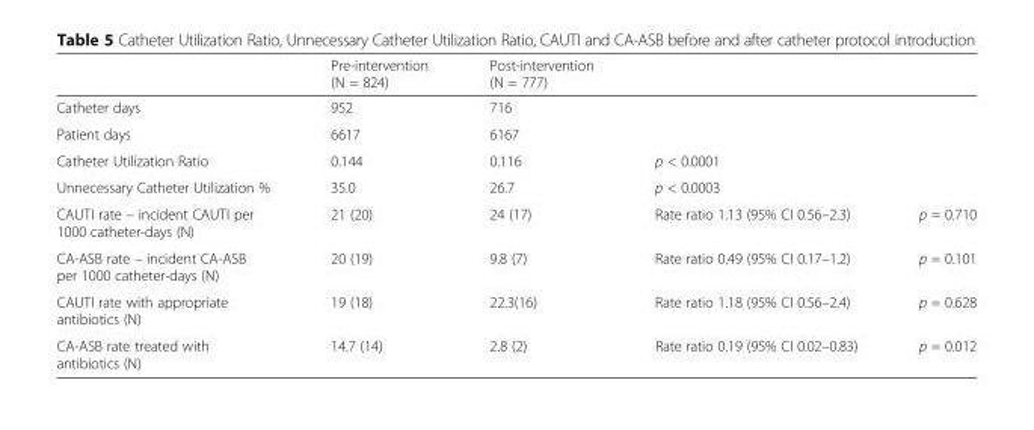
<table><thead><tr><td></td><td>Pre-intervention (N = 824)</td><td>Post-intervention (N = 777)</td><td></td><td></td></tr></thead><tbody><tr><td>Catheter days</td><td>952</td><td>716</td><td colspan="2"></td></tr><tr><td>Patient days</td><td>6617</td><td>6167</td><td colspan="2"></td></tr><tr><td>Catheter Utilization Ratio</td><td>0.144</td><td>0.116</td><td colspan="2">p &lt; 0.0001</td></tr><tr><td>Unnecessary Catheter Utilization %</td><td>35.0</td><td>26.7</td><td colspan="2">p &lt; 0.0003</td></tr><tr><td>CAUTI rate – incident CAUTI per 1000 catheter-days (N)</td><td>21 (20)</td><td>24 (17)</td><td>Rate ratio 1.13 (95% CI 0.56–2.3)</td><td>p = 0.710</td></tr><tr><td>CA-ASB rate – incident CA-ASB per 1000 catheter-days (N)</td><td>20 (19)</td><td>9.8 (7)</td><td>Rate ratio 0.49 (95% CI 0.17–1.2)</td><td>p = 0.101</td></tr><tr><td>CAUTI rate with appropriate antibiotics (N)</td><td>19 (18)</td><td>22.3(16)</td><td>Rate ratio 1.18 (95% CI 0.56–2.4)</td><td>p = 0.628</td></tr><tr><td>CA-ASB rate treated with antibiotics (N)</td><td>14.7 (14)</td><td>2.8 (2)</td><td>Rate ratio 0.19 (95% CI 0.02–0.83)</td><td>p = 0.012</td></tr></tbody></table>